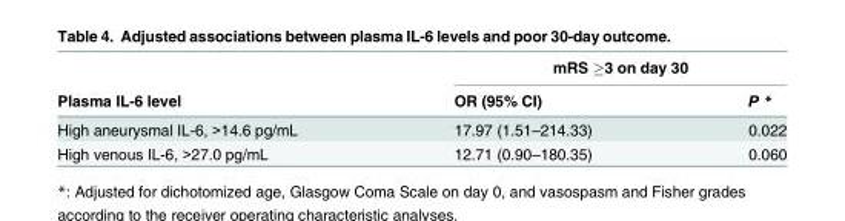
<table><thead><tr><td rowspan="2">Plasma IL-6 level</td><td colspan="2">mRS ≥3 on day 30</td></tr><tr><td>OR (95% CI)</td><td>P *</td></tr></thead><tbody><tr><td>High aneurysmal IL-6, &gt;14.6 pg/mL</td><td>17.97 (1.51–214.33)</td><td>0.022</td></tr><tr><td>High venous IL-6, &gt;27.0 pg/mL</td><td>12.71 (0.90–180.35)</td><td>0.060</td></tr></tbody></table>